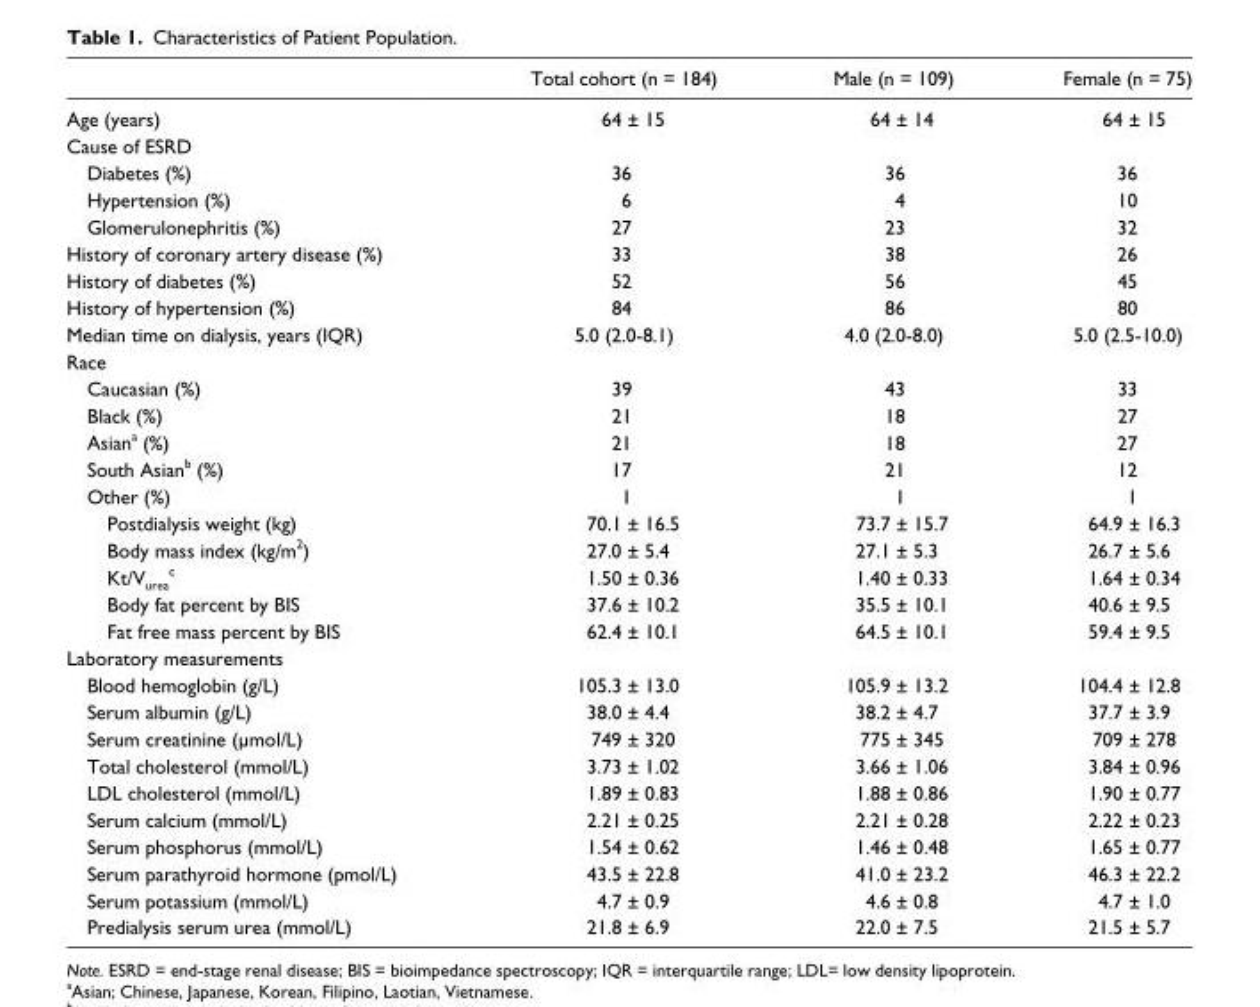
<table><thead><tr><td></td><td>Total cohort (n = 184)</td><td>Male (n = 109)</td><td>Female (n = 75)</td></tr></thead><tbody><tr><td>Age (years)</td><td>64 ± 15</td><td>64 ± 14</td><td>64 ± 15</td></tr><tr><td colspan="4">Cause of ESRD</td></tr><tr><td>Diabetes (%)</td><td>36</td><td>36</td><td>36</td></tr><tr><td>Hypertension (%)</td><td>6</td><td>4</td><td>10</td></tr><tr><td>Glomerulonephritis (%)</td><td>27</td><td>23</td><td>32</td></tr><tr><td>History of coronary artery disease (%)</td><td>33</td><td>38</td><td>26</td></tr><tr><td>History of diabetes (%)</td><td>52</td><td>56</td><td>45</td></tr><tr><td>History of hypertension (%)</td><td>84</td><td>86</td><td>80</td></tr><tr><td>Median time on dialysis, years (IQR)</td><td>5.0 (2.0-8.1)</td><td>4.0 (2.0-8.0)</td><td>5.0 (2.5-10.0)</td></tr><tr><td colspan="4">Race</td></tr><tr><td>Caucasian (%)</td><td>39</td><td>43</td><td>33</td></tr><tr><td>Black (%)</td><td>21</td><td>18</td><td>27</td></tr><tr><td>Asian<sup>a</sup> (%)</td><td>21</td><td>18</td><td>27</td></tr><tr><td>South Asian<sup>b</sup> (%)</td><td>17</td><td>21</td><td>12</td></tr><tr><td>Other (%)</td><td>1</td><td>1</td><td>1</td></tr><tr><td>Postdialysis weight (kg)</td><td>70.1 ± 16.5</td><td>73.7 ± 15.7</td><td>64.9 ± 16.3</td></tr><tr><td>Body mass index (kg/m<sup>2</sup>)</td><td>27.0 ± 5.4</td><td>27.1 ± 5.3</td><td>26.7 ± 5.6</td></tr><tr><td>Kt/V<sub>urea</sub> <sup>c</sup></td><td>1.50 ± 0.36</td><td>1.40 ± 0.33</td><td>1.64 ± 0.34</td></tr><tr><td>Body fat percent by BIS</td><td>37.6 ± 10.2</td><td>35.5 ± 10.1</td><td>40.6 ± 9.5</td></tr><tr><td>Fat free mass percent by BIS</td><td>62.4 ± 10.1</td><td>64.5 ± 10.1</td><td>59.4 ± 9.5</td></tr><tr><td colspan="4">Laboratory measurements</td></tr><tr><td>Blood hemoglobin (g/L)</td><td>105.3 ± 13.0</td><td>105.9 ± 13.2</td><td>104.4 ± 12.8</td></tr><tr><td>Serum albumin (g/L)</td><td>38.0 ± 4.4</td><td>38.2 ± 4.7</td><td>37.7 ± 3.9</td></tr><tr><td>Serum creatinine (µmol/L)</td><td>749 ± 320</td><td>775 ± 345</td><td>709 ± 278</td></tr><tr><td>Total cholesterol (mmol/L)</td><td>3.73 ± 1.02</td><td>3.66 ± 1.06</td><td>3.84 ± 0.96</td></tr><tr><td>LDL cholesterol (mmol/L)</td><td>1.89 ± 0.83</td><td>1.88 ± 0.86</td><td>1.90 ± 0.77</td></tr><tr><td>Serum calcium (mmol/L)</td><td>2.21 ± 0.25</td><td>2.21 ± 0.28</td><td>2.22 ± 0.23</td></tr><tr><td>Serum phosphorus (mmol/L)</td><td>1.54 ± 0.62</td><td>1.46 ± 0.48</td><td>1.65 ± 0.77</td></tr><tr><td>Serum parathyroid hormone (pmol/L)</td><td>43.5 ± 22.8</td><td>41.0 ± 23.2</td><td>46.3 ± 22.2</td></tr><tr><td>Serum potassium (mmol/L)</td><td>4.7 ± 0.9</td><td>4.6 ± 0.8</td><td>4.7 ± 1.0</td></tr><tr><td>Predialysis serum urea (mmol/L)</td><td>21.8 ± 6.9</td><td>22.0 ± 7.5</td><td>21.5 ± 5.7</td></tr></tbody></table>